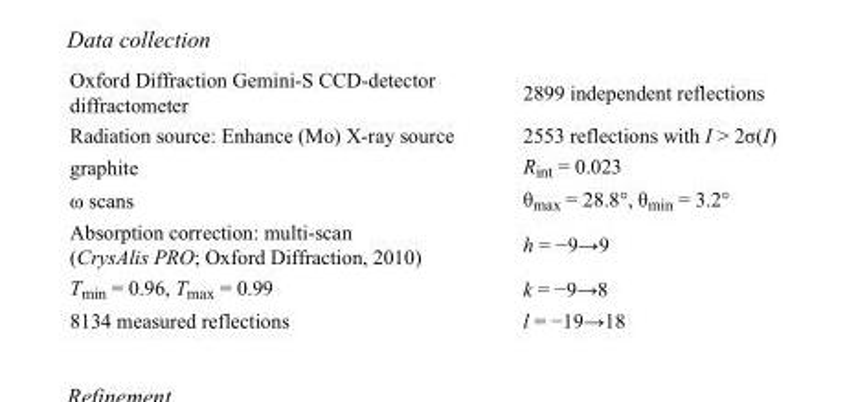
<table><tbody><tr><td>Oxford Diffraction Gemini-S CCD-detector diffractometer</td><td>2899 independent reflections</td></tr><tr><td>Radiation source: Enhance (Mo) X-ray source</td><td>2553 reflections with I &gt; 2σ(I)</td></tr><tr><td>graphite</td><td>R<sub>int</sub> = 0.023</td></tr><tr><td>ω scans</td><td>θ<sub>max</sub> = 28.8°, θ<sub>min</sub> = 3.2°</td></tr><tr><td>Absorption correction: multi-scan (CrysAlis PRO; Oxford Diffraction, 2010)</td><td>h = −9→9</td></tr><tr><td>T<sub>min</sub> = 0.96, T<sub>max</sub> = 0.99</td><td>k = −9→8</td></tr><tr><td>8134 measured reflections</td><td>l = −19→18</td></tr></tbody></table>